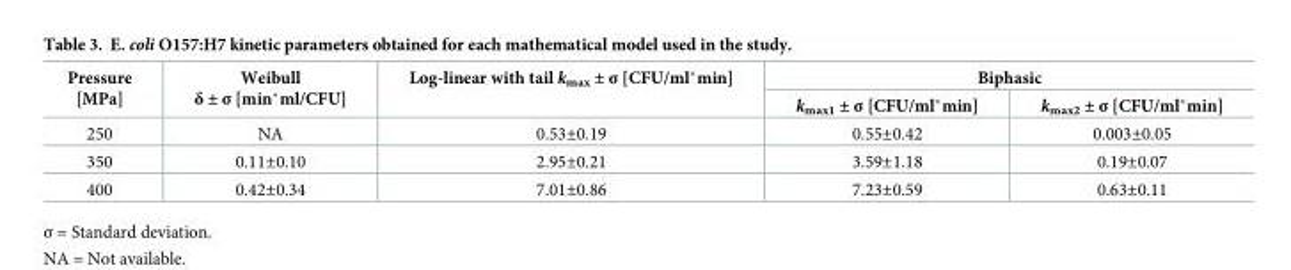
<table><thead><tr><td rowspan="2">Pressure [MPa]</td><td rowspan="2">Weibull δ ± σ [min*ml/CFU]</td><td rowspan="2">Log-linear with tail k<sub>max</sub> ± σ [CFU/ml*min]</td><td colspan="2">Biphasic</td></tr><tr><td>k<sub>max1</sub> ± σ [CFU/ml*min]</td><td>k<sub>max2</sub> ± σ [CFU/ml*min]</td></tr></thead><tbody><tr><td>250</td><td>NA</td><td>0.53±0.19</td><td>0.55±0.42</td><td>0.003±0.05</td></tr><tr><td>350</td><td>0.11±0.10</td><td>2.95±0.21</td><td>3.59±1.18</td><td>0.19±0.07</td></tr><tr><td>400</td><td>0.42±0.34</td><td>7.01±0.86</td><td>7.23±0.59</td><td>0.63±0.11</td></tr></tbody></table>